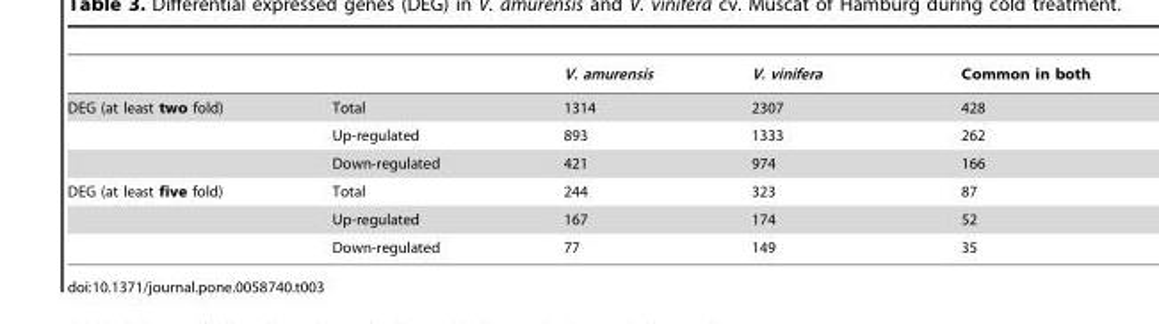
<table><thead><tr><td></td><td></td><td>V. amurensis</td><td>V. vinifera</td><td>Common in both</td></tr></thead><tbody><tr><td rowspan="3">DEG (at least two fold)</td><td>Total</td><td>1314</td><td>2307</td><td>428</td></tr><tr><td>Up-regulated</td><td>893</td><td>1333</td><td>262</td></tr><tr><td>Down-regulated</td><td>421</td><td>974</td><td>166</td></tr><tr><td rowspan="3">DEG (at least five fold)</td><td>Total</td><td>244</td><td>323</td><td>87</td></tr><tr><td>Up-regulated</td><td>167</td><td>174</td><td>52</td></tr><tr><td>Down-regulated</td><td>77</td><td>149</td><td>35</td></tr></tbody></table>